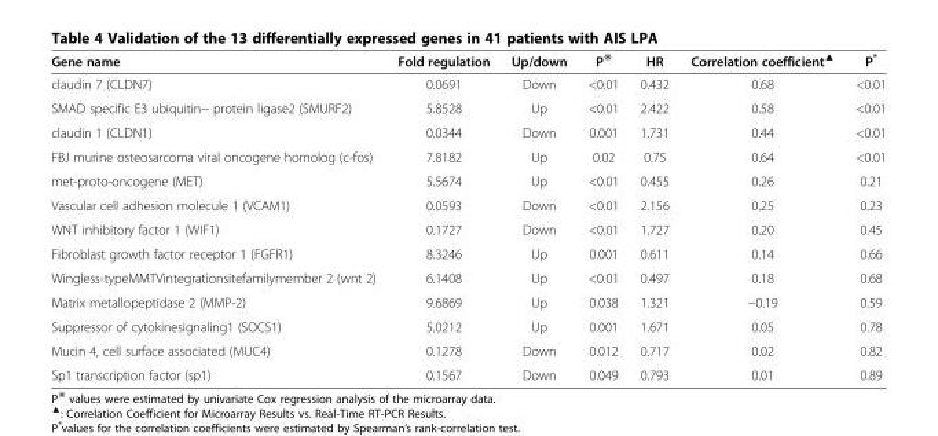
<table><thead><tr><td>Gene name</td><td>Fold regulation</td><td>Up/down</td><td>P<sup>※</sup></td><td>HR</td><td>Correlation coefficient<sup>▲</sup></td><td>P*</td></tr></thead><tbody><tr><td>claudin 7 (CLDN7)</td><td>0.0691</td><td>Down</td><td>&lt;0.01</td><td>0.432</td><td>0.68</td><td>&lt;0.01</td></tr><tr><td>SMAD specific E3 ubiquitin-- protein ligase2 (SMURF2)</td><td>5.8528</td><td>Up</td><td>&lt;0.01</td><td>2.422</td><td>0.58</td><td>&lt;0.01</td></tr><tr><td>claudin 1 (CLDN1)</td><td>0.0344</td><td>Down</td><td>0.001</td><td>1.731</td><td>0.44</td><td>&lt;0.01</td></tr><tr><td>FBJ murine osteosarcoma viral oncogene homolog (c-fos)</td><td>7.8182</td><td>Up</td><td>0.02</td><td>0.75</td><td>0.64</td><td>&lt;0.01</td></tr><tr><td>met-proto-oncogene (MET)</td><td>5.5674</td><td>Up</td><td>&lt;0.01</td><td>0.455</td><td>0.26</td><td>0.21</td></tr><tr><td>Vascular cell adhesion molecule 1 (VCAM1)</td><td>0.0593</td><td>Down</td><td>&lt;0.01</td><td>2.156</td><td>0.25</td><td>0.23</td></tr><tr><td>WNT inhibitory factor 1 (WIF1)</td><td>0.1727</td><td>Down</td><td>&lt;0.01</td><td>1.727</td><td>0.20</td><td>0.45</td></tr><tr><td>Fibroblast growth factor receptor 1 (FGFR1)</td><td>8.3246</td><td>Up</td><td>0.001</td><td>0.611</td><td>0.14</td><td>0.66</td></tr><tr><td>Wingless-typeMMTVintegrationsitefamilymember 2 (wnt 2)</td><td>6.1408</td><td>Up</td><td>&lt;0.01</td><td>0.497</td><td>0.18</td><td>0.68</td></tr><tr><td>Matrix metallopeptidase 2 (MMP-2)</td><td>9.6869</td><td>Up</td><td>0.038</td><td>1.321</td><td>−0.19</td><td>0.59</td></tr><tr><td>Suppressor of cytokinesignaling1 (SOCS1)</td><td>5.0212</td><td>Up</td><td>0.001</td><td>1.671</td><td>0.05</td><td>0.78</td></tr><tr><td>Mucin 4, cell surface associated (MUC4)</td><td>0.1278</td><td>Down</td><td>0.012</td><td>0.717</td><td>0.02</td><td>0.82</td></tr><tr><td>Sp1 transcription factor (sp1)</td><td>0.1567</td><td>Down</td><td>0.049</td><td>0.793</td><td>0.01</td><td>0.89</td></tr></tbody></table>